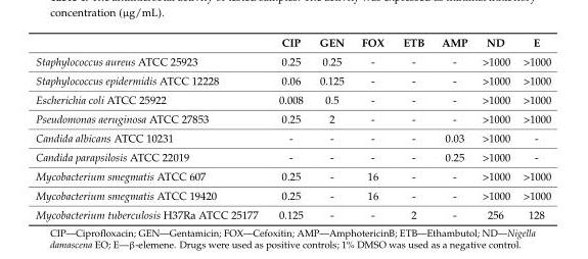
<table><thead><tr><td></td><td>CIP</td><td>GEN</td><td>FOX</td><td>ETB</td><td>AMP</td><td>ND</td><td>E</td></tr></thead><tbody><tr><td>Staphylococcus aureus ATCC 25923</td><td>0.25</td><td>0.25</td><td>-</td><td>-</td><td>-</td><td>&gt;1000</td><td>&gt;1000</td></tr><tr><td>Staphylococcus epidermidis ATCC 12228</td><td>0.06</td><td>0.125</td><td>-</td><td>-</td><td>-</td><td>&gt;1000</td><td>&gt;1000</td></tr><tr><td>Escherichia coli ATCC 25922</td><td>0.008</td><td>0.5</td><td>-</td><td>-</td><td>-</td><td>&gt;1000</td><td>&gt;1000</td></tr><tr><td>Pseudomonas aeruginosa ATCC 27853</td><td>0.25</td><td>2</td><td>-</td><td>-</td><td>-</td><td>&gt;1000</td><td>&gt;1000</td></tr><tr><td>Candida albicans ATCC 10231</td><td>-</td><td>-</td><td>-</td><td>-</td><td>0.03</td><td>&gt;1000</td><td>-</td></tr><tr><td>Candida parapsilosis ATCC 22019</td><td>-</td><td>-</td><td>-</td><td>-</td><td>0.25</td><td>&gt;1000</td><td>-</td></tr><tr><td>Mycobacterium smegmatis ATCC 607</td><td>0.25</td><td>-</td><td>16</td><td>-</td><td>-</td><td>&gt;1000</td><td>&gt;1000</td></tr><tr><td>Mycobacterium smegmatis ATCC 19420</td><td>0.25</td><td>-</td><td>16</td><td>-</td><td>-</td><td>&gt;1000</td><td>&gt;1000</td></tr><tr><td>Mycobacterium tuberculosis H37Ra ATCC 25177</td><td>0.125</td><td>-</td><td>-</td><td>2</td><td>-</td><td>256</td><td>128</td></tr></tbody></table>